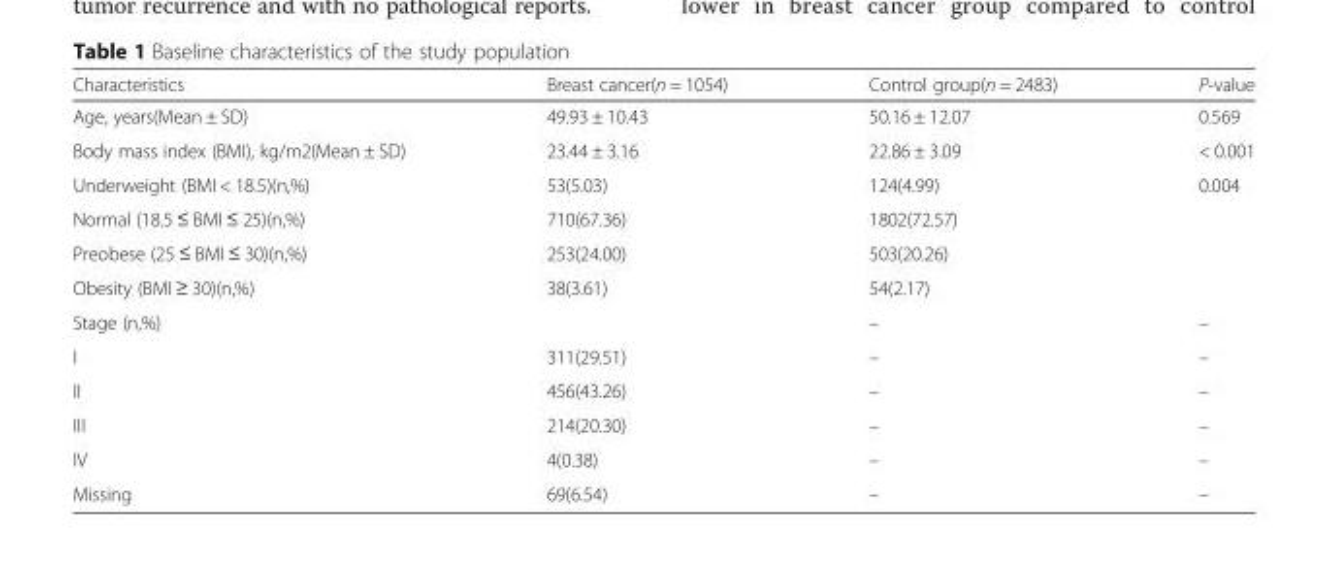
<table><thead><tr><td>Characteristics</td><td>Breast cancer(n = 1054)</td><td>Control group(n = 2483)</td><td>P-value</td></tr></thead><tbody><tr><td>Age, years(Mean ± SD)</td><td>49.93 ± 10.43</td><td>50.16 ± 12.07</td><td>0.569</td></tr><tr><td>Body mass index (BMI), kg/m2(Mean ± SD)</td><td>23.44 ± 3.16</td><td>22.86 ± 3.09</td><td>&lt; 0.001</td></tr><tr><td>Underweight (BMI &lt; 18.5)(n,%)</td><td>53(5.03)</td><td>124(4.99)</td><td rowspan="4">0.004</td></tr><tr><td>Normal (18.5 ≤ BMI ≤ 25)(n,%)</td><td>710(67.36)</td><td>1802(72.57)</td></tr><tr><td>Preobese (25 ≤ BMI ≤ 30)(n,%)</td><td>253(24.00)</td><td>503(20.26)</td></tr><tr><td>Obesity (BMI ≥ 30)(n,%)</td><td>38(3.61)</td><td>54(2.17)</td></tr><tr><td>Stage (n,%)</td><td></td><td>–</td><td>–</td></tr><tr><td>I</td><td>311(29.51)</td><td>–</td><td>–</td></tr><tr><td>II</td><td>456(43.26)</td><td>–</td><td>–</td></tr><tr><td>III</td><td>214(20.30)</td><td>–</td><td>–</td></tr><tr><td>IV</td><td>4(0.38)</td><td>–</td><td>–</td></tr><tr><td>Missing</td><td>69(6.54)</td><td>–</td><td>–</td></tr></tbody></table>